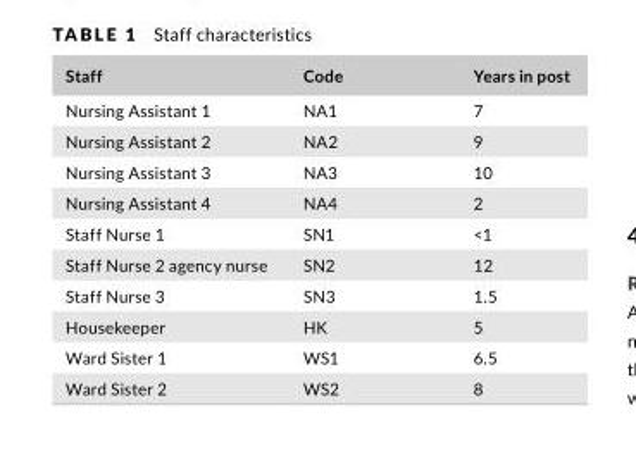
<table><thead><tr><td>Staff</td><td>Code</td><td>Years in post</td></tr></thead><tbody><tr><td>Nursing Assistant 1</td><td>NA1</td><td>7</td></tr><tr><td>Nursing Assistant 2</td><td>NA2</td><td>9</td></tr><tr><td>Nursing Assistant 3</td><td>NA3</td><td>10</td></tr><tr><td>Nursing Assistant 4</td><td>NA4</td><td>2</td></tr><tr><td>Staff Nurse 1</td><td>SN1</td><td>&lt;1</td></tr><tr><td>Staff Nurse 2 agency nurse</td><td>SN2</td><td>12</td></tr><tr><td>Staff Nurse 3</td><td>SN3</td><td>1.5</td></tr><tr><td>Housekeeper</td><td>HK</td><td>5</td></tr><tr><td>Ward Sister 1</td><td>WS1</td><td>6.5</td></tr><tr><td>Ward Sister 2</td><td>WS2</td><td>8</td></tr></tbody></table>